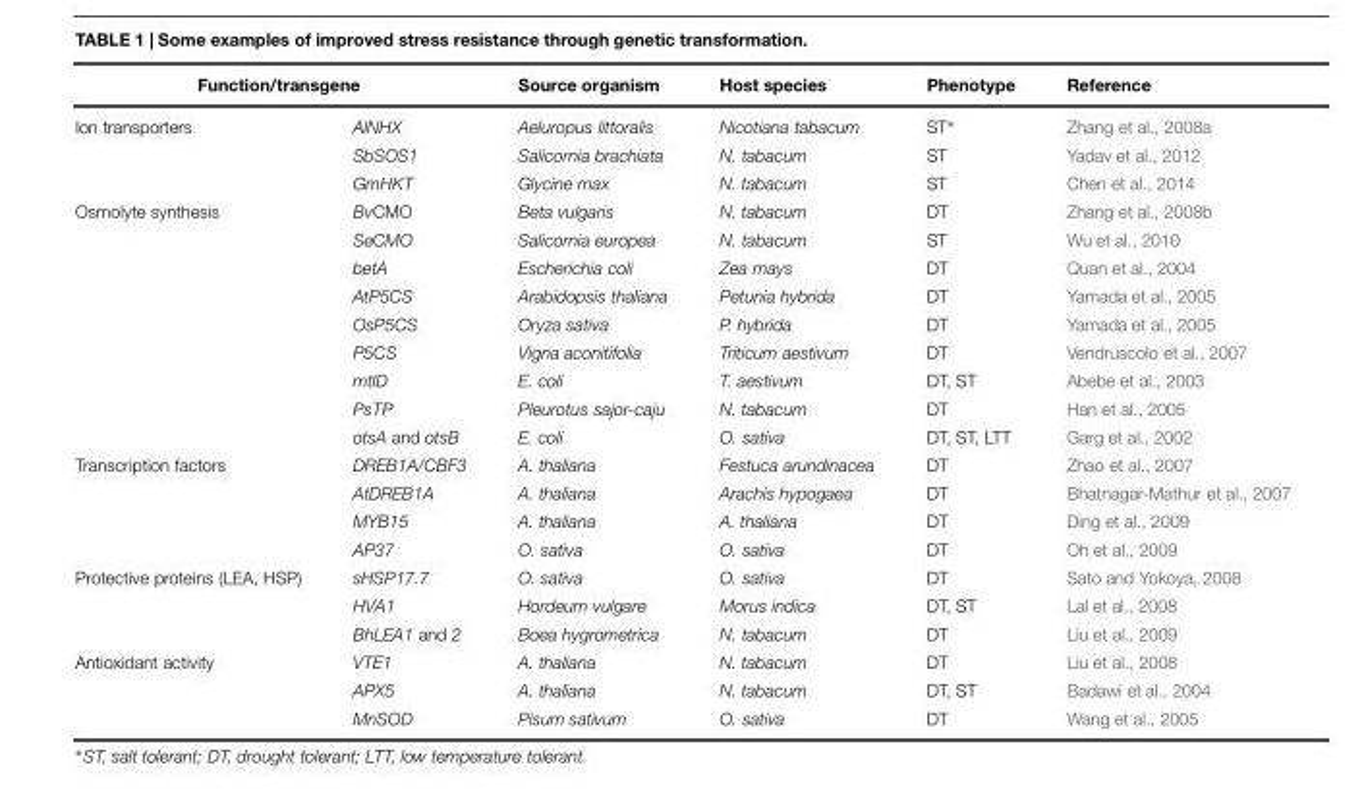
<table><thead><tr><td colspan="2">Function/transgene</td><td rowspan="2">Source organism Aeluropus littoralis</td><td rowspan="2">Host species Nicotiana tabacum</td><td rowspan="2">Phenotype ST∗</td><td rowspan="2">Reference Zhang et al., 2008a</td></tr><tr><td>Ion transporters</td><td>AlNHX</td></tr></thead><tbody><tr><td></td><td>SbSOS1</td><td>Salicornia brachiata</td><td>N. tabacum</td><td>ST</td><td>Yadav et al., 2012</td></tr><tr><td></td><td>GmHKT</td><td>Glycine max</td><td>N. tabacum</td><td>ST</td><td>Chen et al., 2014</td></tr><tr><td rowspan="9">Osmolyte synthesis</td><td>BvCMO</td><td>Beta vulgaris</td><td>N. tabacum</td><td>DT</td><td>Zhang et al., 2008b</td></tr><tr><td>SeCMO</td><td>Salicornia europea</td><td>N. tabacum</td><td>ST</td><td>Wu et al., 2010</td></tr><tr><td>betA</td><td>Escherichia coli</td><td>Zea mays</td><td>DT</td><td>Quan et al., 2004</td></tr><tr><td>AtP5CS</td><td>Arabidopsis thaliana</td><td>Petunia hybrida</td><td>DT</td><td>Yamada et al., 2005</td></tr><tr><td>OsP5CS</td><td>Oryza sativa</td><td>P. hybrida</td><td>DT</td><td>Yamada et al., 2005</td></tr><tr><td>P5CS</td><td>Vigna aconitifolia</td><td>Triticum aestivum</td><td>DT</td><td>Vendruscolo et al., 2007</td></tr><tr><td>mtlD</td><td>E. coli</td><td>T. aestivum</td><td>DT, ST</td><td>Abebe et al., 2003</td></tr><tr><td>PsTP</td><td>Pleurotus sajor-caju</td><td>N. tabacum</td><td>DT</td><td>Han et al., 2005</td></tr><tr><td>otsA and otsB</td><td>E. coli</td><td>O. sativa</td><td>DT, ST, LTT</td><td>Garg et al., 2002</td></tr><tr><td rowspan="4">Transcription factors</td><td>DREB1A/CBF3</td><td>A. thaliana</td><td>Festuca arundinacea</td><td>DT</td><td>Zhao et al., 2007</td></tr><tr><td>AtDREB1A</td><td>A. thaliana</td><td>Arachis hypogaea</td><td>DT</td><td>Bhatnagar-Mathur et al., 2007</td></tr><tr><td>MYB15</td><td>A. thaliana</td><td>A. thaliana</td><td>DT</td><td>Ding et al., 2009</td></tr><tr><td>AP37</td><td>O. sativa</td><td>O. sativa</td><td>DT</td><td>Oh et al., 2009</td></tr><tr><td rowspan="3">Protective proteins (LEA, HSP)</td><td>sHSP17.7</td><td>O. sativa</td><td>O. sativa</td><td>DT</td><td>Sato and Yokoya, 2008</td></tr><tr><td>HVA1</td><td>Hordeum vulgare</td><td>Morus indica</td><td>DT, ST</td><td>Lal et al., 2008</td></tr><tr><td>BhLEA1 and 2</td><td>Boea hygrometrica</td><td>N. tabacum</td><td>DT</td><td>Liu et al., 2009</td></tr><tr><td rowspan="3">Antioxidant activity</td><td>VTE1</td><td>A. thaliana</td><td>N. tabacum</td><td>DT</td><td>Liu et al., 2008</td></tr><tr><td>APX5</td><td>A. thaliana</td><td>N. tabacum</td><td>DT, ST</td><td>Badawi et al., 2004</td></tr><tr><td>MnSOD</td><td>Pisum sativum</td><td>O. sativa</td><td>DT</td><td>Wang et al., 2005</td></tr></tbody></table>